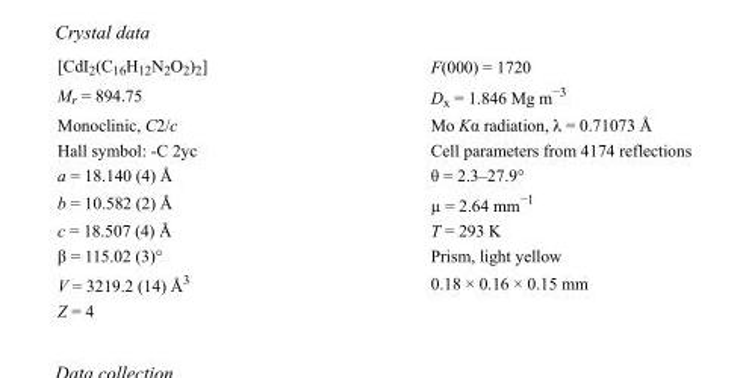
<table><tbody><tr><td>[CdI<sub>2</sub>(C<sub>16</sub>H<sub>12</sub>N<sub>2</sub>O<sub>2</sub>)<sub>2</sub>]</td><td>F(000) = 1720</td></tr><tr><td>M<sub>r</sub> = 894.75</td><td>D<sub>x</sub> = 1.846 Mg m<sup>−3</sup></td></tr><tr><td>Monoclinic, C2/c</td><td>Mo Kα radiation, λ = 0.71073 Å</td></tr><tr><td>Hall symbol: -C 2yc</td><td>Cell parameters from 4174 reflections</td></tr><tr><td>a = 18.140 (4) Å</td><td>θ = 2.3–27.9°</td></tr><tr><td>b = 10.582 (2) Å</td><td>µ = 2.64 mm<sup>−1</sup></td></tr><tr><td>c = 18.507 (4) Å</td><td>T = 293 K</td></tr><tr><td>β = 115.02 (3)°</td><td>Prism, light yellow</td></tr><tr><td>V = 3219.2 (14) Å<sup>3</sup></td><td>0.18 × 0.16 × 0.15 mm</td></tr><tr><td>Z = 4</td><td></td></tr></tbody></table>